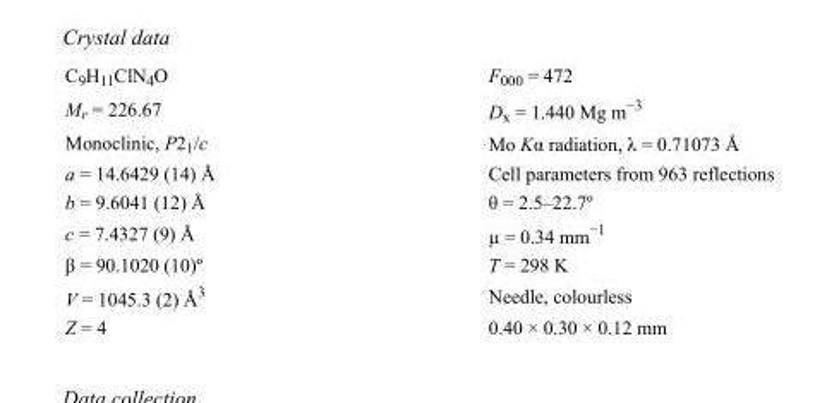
<table><tbody><tr><td>C<sub>9</sub>H<sub>11</sub>ClN<sub>4</sub>O</td><td>F000 = 472</td></tr><tr><td>M<sub>r</sub> = 226.67</td><td>D<sub>x</sub> = 1.440 Mg m<sup>−3</sup></td></tr><tr><td>Monoclinic, P2<sub>1</sub>/c</td><td>Mo Kα radiation, λ = 0.71073 Å</td></tr><tr><td>a = 14.6429 (14) Å</td><td>Cell parameters from 963 reflections</td></tr><tr><td>b = 9.6041 (12) Å</td><td>θ = 2.5–22.7º</td></tr><tr><td>c = 7.4327 (9) Å</td><td>µ = 0.34 mm<sup>−1</sup></td></tr><tr><td>β = 90.1020 (10)º</td><td>T = 298 K</td></tr><tr><td>V = 1045.3 (2) Å<sup>3</sup></td><td>Needle, colourless</td></tr><tr><td>Z = 4</td><td>0.40 × 0.30 × 0.12 mm</td></tr></tbody></table>